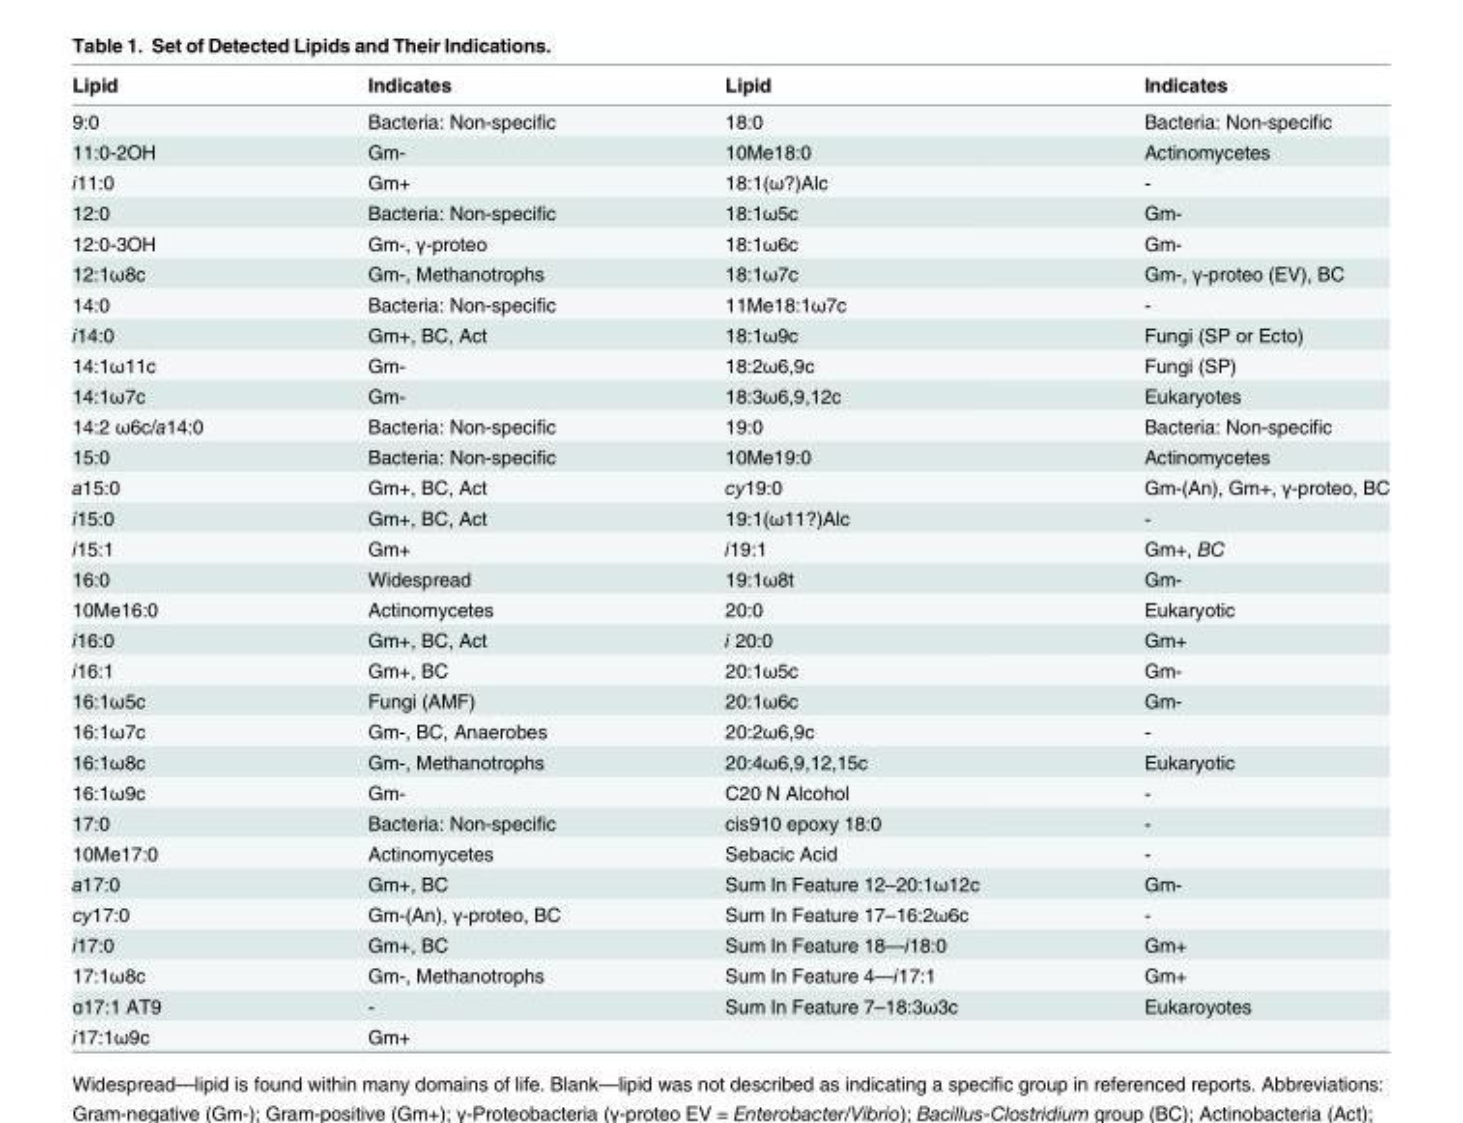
<table><thead><tr><td>Lipid</td><td>Indicates</td><td>Lipid</td><td>Indicates</td></tr></thead><tbody><tr><td>9:0</td><td>Bacteria: Non-specific</td><td>18:0</td><td>Bacteria: Non-specific</td></tr><tr><td>11:0-2OH</td><td>Gm-</td><td>10Me18:0</td><td>Actinomycetes</td></tr><tr><td>i11:0</td><td>Gm+</td><td>18:1(ω?)Alc</td><td>-</td></tr><tr><td>12:0</td><td>Bacteria: Non-specific</td><td>18:1ω5c</td><td>Gm-</td></tr><tr><td>12:0-3OH</td><td>Gm-, γ-proteo</td><td>18:1ω6c</td><td>Gm-</td></tr><tr><td>12:1ω8c</td><td>Gm-, Methanotrophs</td><td>18:1ω7c</td><td>Gm-, γ-proteo (EV), BC</td></tr><tr><td>14:0</td><td>Bacteria: Non-specific</td><td>11Me18:1ω7c</td><td>-</td></tr><tr><td>i14:0</td><td>Gm+, BC, Act</td><td>18:1ω9c</td><td>Fungi (SP or Ecto)</td></tr><tr><td>14:1ω11c</td><td>Gm-</td><td>18:2ω6,9c</td><td>Fungi (SP)</td></tr><tr><td>14:1ω7c</td><td>Gm-</td><td>18:3ω6,9,12c</td><td>Eukaryotes</td></tr><tr><td>14:2 ω6c/a14:0</td><td>Bacteria: Non-specific</td><td>19:0</td><td>Bacteria: Non-specific</td></tr><tr><td>15:0</td><td>Bacteria: Non-specific</td><td>10Me19:0</td><td>Actinomycetes</td></tr><tr><td>a15:0</td><td>Gm+, BC, Act</td><td>cy19:0</td><td>Gm-(An), Gm+, γ-proteo, BC</td></tr><tr><td>i15:0</td><td>Gm+, BC, Act</td><td>19:1(ω11?)Alc</td><td>-</td></tr><tr><td>i15:1</td><td>Gm+</td><td>i19:1</td><td>Gm+, BC</td></tr><tr><td>16:0</td><td>Widespread</td><td>19:1ω8t</td><td>Gm-</td></tr><tr><td>10Me16:0</td><td>Actinomycetes</td><td>20:0</td><td>Eukaryotic</td></tr><tr><td>i16:0</td><td>Gm+, BC, Act</td><td>i 20:0</td><td>Gm+</td></tr><tr><td>i16:1</td><td>Gm+, BC</td><td>20:1ω5c</td><td>Gm-</td></tr><tr><td>16:1ω5c</td><td>Fungi (AMF)</td><td>20:1ω6c</td><td>Gm-</td></tr><tr><td>16:1ω7c</td><td>Gm-, BC, Anaerobes</td><td>20:2ω6,9c</td><td>-</td></tr><tr><td>16:1ω8c</td><td>Gm-, Methanotrophs</td><td>20:4ω6,9,12,15c</td><td>Eukaryotic</td></tr><tr><td>16:1ω9c</td><td>Gm-</td><td>C20 N Alcohol</td><td>-</td></tr><tr><td>17:0</td><td>Bacteria: Non-specific</td><td>cis910 epoxy 18:0</td><td>-</td></tr><tr><td>10Me17:0</td><td>Actinomycetes</td><td>Sebacic Acid</td><td>-</td></tr><tr><td>a17:0</td><td>Gm+, BC</td><td>Sum In Feature 12–20:1ω12c</td><td>Gm-</td></tr><tr><td>cy17:0</td><td>Gm-(An), γ-proteo, BC</td><td>Sum In Feature 17–16:2ω6c</td><td>-</td></tr><tr><td>i17:0</td><td>Gm+, BC</td><td>Sum In Feature 18—i18:0</td><td>Gm+</td></tr><tr><td>17:1ω8c</td><td>Gm-, Methanotrophs</td><td>Sum In Feature 4—i17:1</td><td>Gm+</td></tr><tr><td>ɑ17:1 AT9</td><td>-</td><td>Sum In Feature 7–18:3ω3c</td><td>Eukaroyotes</td></tr><tr><td>i17:1ω9c</td><td>Gm+</td><td></td><td></td></tr></tbody></table>